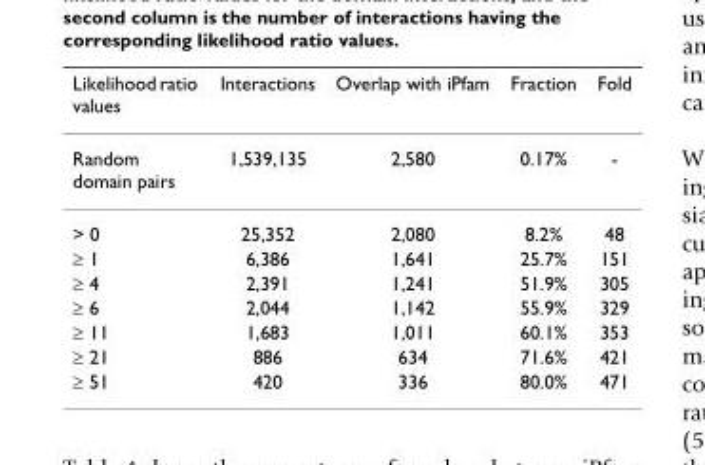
<table><thead><tr><td>Likelihood ratio values</td><td>Interactions</td><td>Overlap with iPfam</td><td>Fraction</td><td>Fold</td></tr></thead><tbody><tr><td>Random domain pairs</td><td>1,539,135</td><td>2,580</td><td>0.17%</td><td>-</td></tr><tr><td>&gt; 0</td><td>25,352</td><td>2,080</td><td>8.2%</td><td>48</td></tr><tr><td>≥ 1</td><td>6,386</td><td>1,641</td><td>25.7%</td><td>151</td></tr><tr><td>≥ 4</td><td>2,391</td><td>1,241</td><td>51.9%</td><td>305</td></tr><tr><td>≥ 6</td><td>2,044</td><td>1,142</td><td>55.9%</td><td>329</td></tr><tr><td>≥ 11</td><td>1,683</td><td>1,011</td><td>60.1%</td><td>353</td></tr><tr><td>≥ 21</td><td>886</td><td>634</td><td>71.6%</td><td>421</td></tr><tr><td>≥ 51</td><td>420</td><td>336</td><td>80.0%</td><td>471</td></tr></tbody></table>